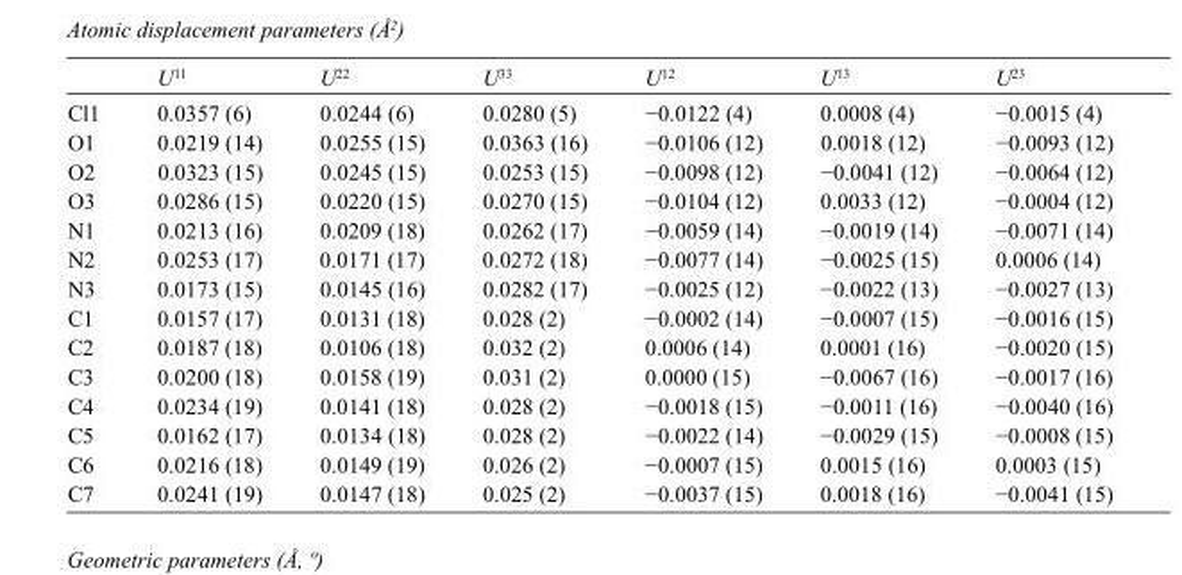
<table><thead><tr><td></td><td>U<sup>11</sup></td><td>U<sup>22</sup></td><td>U<sup>33</sup></td><td>U<sup>12</sup></td><td>U<sup>13</sup></td><td>U<sup>23</sup></td></tr></thead><tbody><tr><td>Cl1</td><td>0.0357 (6)</td><td>0.0244 (6)</td><td>0.0280 (5)</td><td>−0.0122 (4)</td><td>0.0008 (4)</td><td>−0.0015 (4)</td></tr><tr><td>O1</td><td>0.0219 (14)</td><td>0.0255 (15)</td><td>0.0363 (16)</td><td>−0.0106 (12)</td><td>0.0018 (12)</td><td>−0.0093 (12)</td></tr><tr><td>O2</td><td>0.0323 (15)</td><td>0.0245 (15)</td><td>0.0253 (15)</td><td>−0.0098 (12)</td><td>−0.0041 (12)</td><td>−0.0064 (12)</td></tr><tr><td>O3</td><td>0.0286 (15)</td><td>0.0220 (15)</td><td>0.0270 (15)</td><td>−0.0104 (12)</td><td>0.0033 (12)</td><td>−0.0004 (12)</td></tr><tr><td>N1</td><td>0.0213 (16)</td><td>0.0209 (18)</td><td>0.0262 (17)</td><td>−0.0059 (14)</td><td>−0.0019 (14)</td><td>−0.0071 (14)</td></tr><tr><td>N2</td><td>0.0253 (17)</td><td>0.0171 (17)</td><td>0.0272 (18)</td><td>−0.0077 (14)</td><td>−0.0025 (15)</td><td>0.0006 (14)</td></tr><tr><td>N3</td><td>0.0173 (15)</td><td>0.0145 (16)</td><td>0.0282 (17)</td><td>−0.0025 (12)</td><td>−0.0022 (13)</td><td>−0.0027 (13)</td></tr><tr><td>C1</td><td>0.0157 (17)</td><td>0.0131 (18)</td><td>0.028 (2)</td><td>−0.0002 (14)</td><td>−0.0007 (15)</td><td>−0.0016 (15)</td></tr><tr><td>C2</td><td>0.0187 (18)</td><td>0.0106 (18)</td><td>0.032 (2)</td><td>0.0006 (14)</td><td>0.0001 (16)</td><td>−0.0020 (15)</td></tr><tr><td>C3</td><td>0.0200 (18)</td><td>0.0158 (19)</td><td>0.031 (2)</td><td>0.0000 (15)</td><td>−0.0067 (16)</td><td>−0.0017 (16)</td></tr><tr><td>C4</td><td>0.0234 (19)</td><td>0.0141 (18)</td><td>0.028 (2)</td><td>−0.0018 (15)</td><td>−0.0011 (16)</td><td>−0.0040 (16)</td></tr><tr><td>C5</td><td>0.0162 (17)</td><td>0.0134 (18)</td><td>0.028 (2)</td><td>−0.0022 (14)</td><td>−0.0029 (15)</td><td>−0.0008 (15)</td></tr><tr><td>C6</td><td>0.0216 (18)</td><td>0.0149 (19)</td><td>0.026 (2)</td><td>−0.0007 (15)</td><td>0.0015 (16)</td><td>0.0003 (15)</td></tr><tr><td>C7</td><td>0.0241 (19)</td><td>0.0147 (18)</td><td>0.025 (2)</td><td>−0.0037 (15)</td><td>0.0018 (16)</td><td>−0.0041 (15)</td></tr></tbody></table>